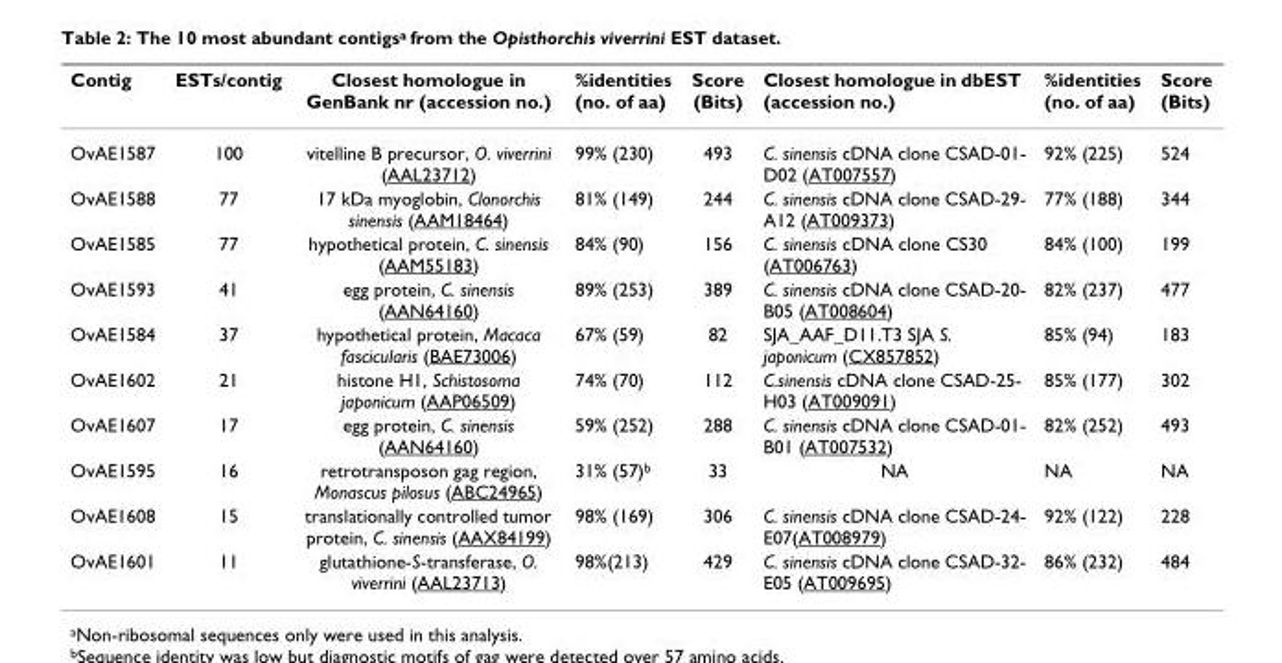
<table><thead><tr><td>Contig</td><td>ESTs/contig</td><td>Closest homologue in GenBank nr (accession no.)</td><td>%identities (no. of aa)</td><td>Score (Bits)</td><td>Closest homologue in dbEST (accession no.)</td><td>%identities (no. of aa)</td><td>Score (Bits)</td></tr></thead><tbody><tr><td>OvAE1587</td><td>100</td><td>vitelline B precursor, O. viverrini (AAL23712)</td><td>99% (230)</td><td>493</td><td>C. sinensis cDNA clone CSAD-01- D02 (AT007557)</td><td>92% (225)</td><td>524</td></tr><tr><td>OvAE1588</td><td>77</td><td>17 kDa myoglobin, Clonorchis sinensis (AAM18464)</td><td>81% (149)</td><td>244</td><td>C. sinensis cDNA clone CSAD-29- A12 (AT009373)</td><td>77% (188)</td><td>344</td></tr><tr><td>OvAE1585</td><td>77</td><td>hypothetical protein, C. sinensis (AAM55183)</td><td>84% (90)</td><td>156</td><td>C. sinensis cDNA clone CS30 (AT006763)</td><td>84% (100)</td><td>199</td></tr><tr><td>OvAE1593</td><td>41</td><td>egg protein, C. sinensis (AAN64160)</td><td>89% (253)</td><td>389</td><td>C. sinensis cDNA clone CSAD-20- B05 (AT008604)</td><td>82% (237)</td><td>477</td></tr><tr><td>OvAE1584</td><td>37</td><td>hypothetical protein, Macaca fascicularis (BAE73006)</td><td>67% (59)</td><td>82</td><td>SJA_AAF_D11.T3 SJA S. japonicum (CX857852)</td><td>85% (94)</td><td>183</td></tr><tr><td>OvAE1602</td><td>21</td><td>histone H1, Schistosoma japonicum (AAP06509)</td><td>74% (70)</td><td>112</td><td>C.sinensis cDNA clone CSAD-25- H03 (AT009091)</td><td>85% (177)</td><td>302</td></tr><tr><td>OvAE1607</td><td>17</td><td>egg protein, C. sinensis (AAN64160)</td><td>59% (252)</td><td>288</td><td>C. sinensis cDNA clone CSAD-01- B01 (AT007532)</td><td>82% (252)</td><td>493</td></tr><tr><td>OvAE1595</td><td>16</td><td>retrotransposon gag region, Monascus pilosus (ABC24965)</td><td>31% (57)<sup>b</sup></td><td>33</td><td>NA</td><td>NA</td><td>NA</td></tr><tr><td>OvAE1608</td><td>15</td><td>translationally controlled tumor protein, C. sinensis (AAX84199)</td><td>98% (169)</td><td>306</td><td>C. sinensis cDNA clone CSAD-24- E07(AT008979)</td><td>92% (122)</td><td>228</td></tr><tr><td>OvAE1601</td><td>11</td><td>glutathione-S-transferase, O. viverrini (AAL23713)</td><td>98%(213)</td><td>429</td><td>C. sinensis cDNA clone CSAD-32- E05 (AT009695)</td><td>86% (232)</td><td>484</td></tr></tbody></table>